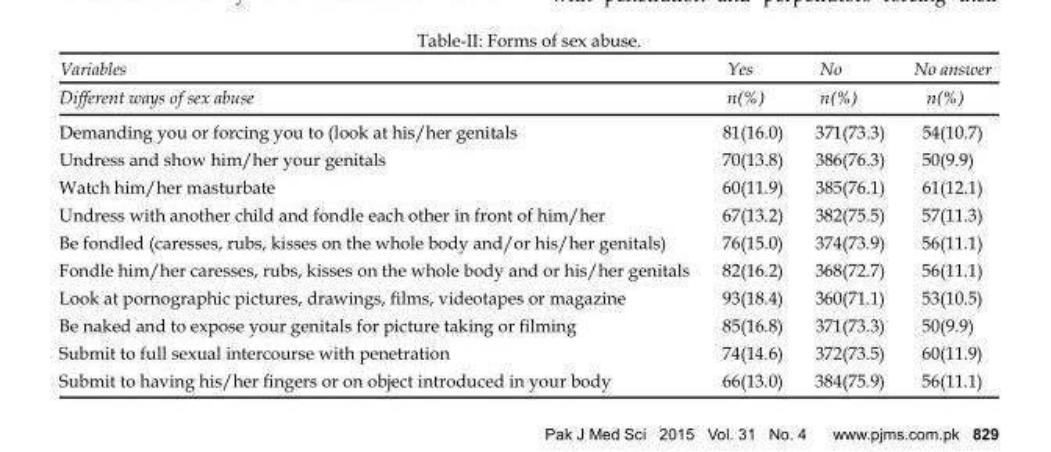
<table><thead><tr><td rowspan="2">Variables Different ways of sex abuse</td><td rowspan="2">Yes n(%)</td><td rowspan="2">No n(%)</td><td rowspan="2">No answer n(%)</td></tr><tr></tr></thead><tbody><tr><td>Demanding you or forcing you to (look at his/her genitals</td><td>81(16.0)</td><td>371(73.3)</td><td>54(10.7)</td></tr><tr><td>Undress and show him/her your genitals</td><td>70(13.8)</td><td>386(76.3)</td><td>50(9.9)</td></tr><tr><td>Watch him/her masturbate</td><td>60(11.9)</td><td>385(76.1)</td><td>61(12.1)</td></tr><tr><td>Undress with another child and fondle each other in front of him/her</td><td>67(13.2)</td><td>382(75.5)</td><td>57(11.3)</td></tr><tr><td>Be fondled (caresses, rubs, kisses on the whole body and/or his/her genitals)</td><td>76(15.0)</td><td>374(73.9)</td><td>56(11.1)</td></tr><tr><td>Fondle him/her caresses, rubs, kisses on the whole body and or his/her genitals</td><td>82(16.2)</td><td>368(72.7)</td><td>56(11.1)</td></tr><tr><td>Look at pornographic pictures, drawings, films, videotapes or magazine</td><td>93(18.4)</td><td>360(71.1)</td><td>53(10.5)</td></tr><tr><td>Be naked and to expose your genitals for picture taking or filming</td><td>85(16.8)</td><td>371(73.3)</td><td>50(9.9)</td></tr><tr><td>Submit to full sexual intercourse with penetration</td><td>74(14.6)</td><td>372(73.5)</td><td>60(11.9)</td></tr><tr><td>Submit to having his/her fingers or on object introduced in your body</td><td>66(13.0)</td><td>384(75.9)</td><td>56(11.1)</td></tr></tbody></table>